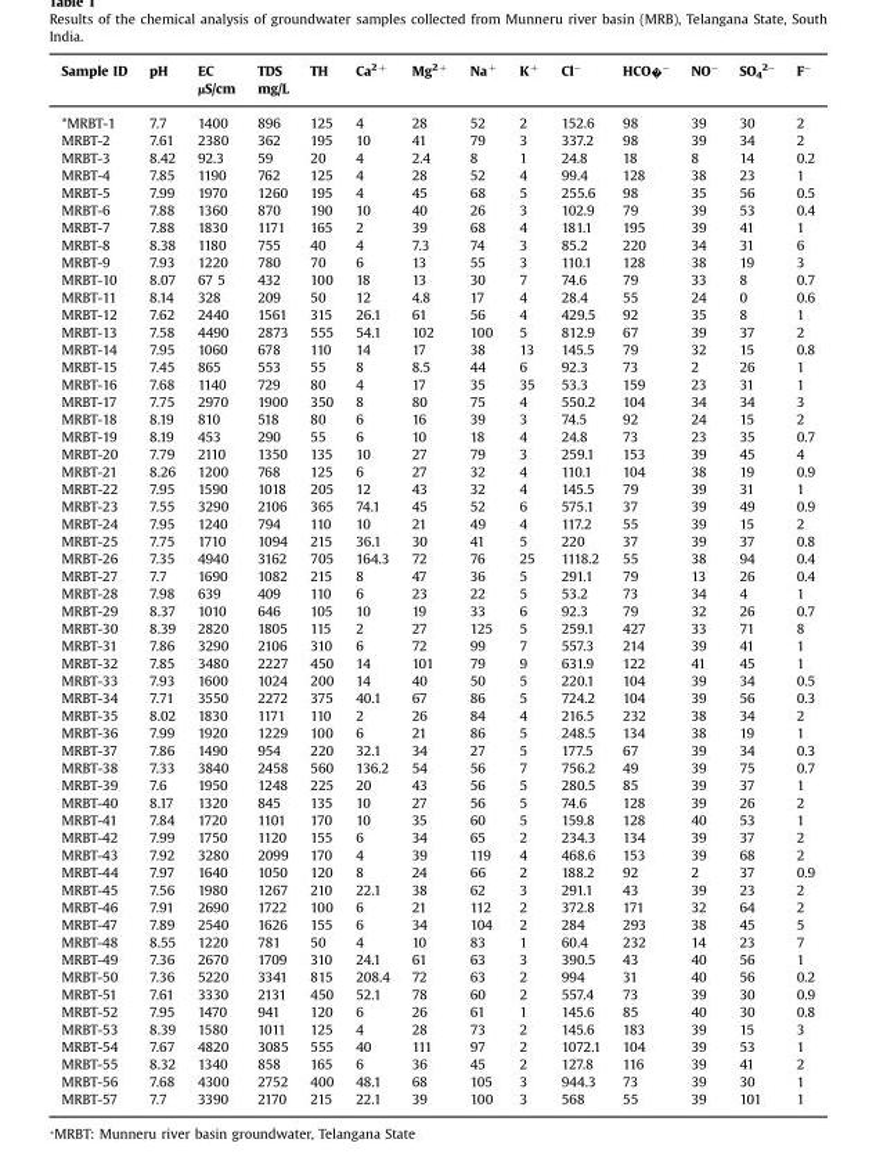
<table><thead><tr><td rowspan="2">Sample ID</td><td rowspan="2">pH</td><td rowspan="2">EC µS/cm</td><td>TDS</td><td>TH</td><td>Ca<sup>2+</sup></td><td>Mg<sup>2+</sup></td><td>Na<sup>+</sup></td><td>K<sup>+</sup></td><td>Cl<sup>−</sup></td><td>HCO₃<sup>−</sup></td><td>NO<sup>−</sup></td><td>SO<sub>4</sub> <sup>2−</sup></td><td>F<sup>−</sup></td></tr><tr><td colspan="11">mg/L</td></tr></thead><tbody><tr><td>*MRBT-1</td><td>7.7</td><td>1400</td><td>896</td><td>125</td><td>4</td><td>28</td><td>52</td><td>2</td><td>152.6</td><td>98</td><td>39</td><td>30</td><td>2</td></tr><tr><td>MRBT-2</td><td>7.61</td><td>2380</td><td>362</td><td>195</td><td>10</td><td>41</td><td>79</td><td>3</td><td>337.2</td><td>98</td><td>39</td><td>34</td><td>2</td></tr><tr><td>MRBT-3</td><td>8.42</td><td>92.3</td><td>59</td><td>20</td><td>4</td><td>2.4</td><td>8</td><td>1</td><td>24.8</td><td>18</td><td>8</td><td>14</td><td>0.2</td></tr><tr><td>MRBT-4</td><td>7.85</td><td>1190</td><td>762</td><td>125</td><td>4</td><td>28</td><td>52</td><td>4</td><td>99.4</td><td>128</td><td>38</td><td>23</td><td>1</td></tr><tr><td>MRBT-5</td><td>7.99</td><td>1970</td><td>1260</td><td>195</td><td>4</td><td>45</td><td>68</td><td>5</td><td>255.6</td><td>98</td><td>35</td><td>56</td><td>0.5</td></tr><tr><td>MRBT-6</td><td>7.88</td><td>1360</td><td>870</td><td>190</td><td>10</td><td>40</td><td>26</td><td>3</td><td>102.9</td><td>79</td><td>39</td><td>53</td><td>0.4</td></tr><tr><td>MRBT-7</td><td>7.88</td><td>1830</td><td>1171</td><td>165</td><td>2</td><td>39</td><td>68</td><td>4</td><td>181.1</td><td>195</td><td>39</td><td>41</td><td>1</td></tr><tr><td>MRBT-8</td><td>8.38</td><td>1180</td><td>755</td><td>40</td><td>4</td><td>7.3</td><td>74</td><td>3</td><td>85.2</td><td>220</td><td>34</td><td>31</td><td>6</td></tr><tr><td>MRBT-9</td><td>7.93</td><td>1220</td><td>780</td><td>70</td><td>6</td><td>13</td><td>55</td><td>3</td><td>110.1</td><td>128</td><td>38</td><td>19</td><td>3</td></tr><tr><td>MRBT-10</td><td>8.07</td><td>67 5</td><td>432</td><td>100</td><td>18</td><td>13</td><td>30</td><td>7</td><td>74.6</td><td>79</td><td>33</td><td>8</td><td>0.7</td></tr><tr><td>MRBT-11</td><td>8.14</td><td>328</td><td>209</td><td>50</td><td>12</td><td>4.8</td><td>17</td><td>4</td><td>28.4</td><td>55</td><td>24</td><td>0</td><td>0.6</td></tr><tr><td>MRBT-12</td><td>7.62</td><td>2440</td><td>1561</td><td>315</td><td>26.1</td><td>61</td><td>56</td><td>4</td><td>429.5</td><td>92</td><td>35</td><td>8</td><td>1</td></tr><tr><td>MRBT-13</td><td>7.58</td><td>4490</td><td>2873</td><td>555</td><td>54.1</td><td>102</td><td>100</td><td>5</td><td>812.9</td><td>67</td><td>39</td><td>37</td><td>2</td></tr><tr><td>MRBT-14</td><td>7.95</td><td>1060</td><td>678</td><td>110</td><td>14</td><td>17</td><td>38</td><td>13</td><td>145.5</td><td>79</td><td>32</td><td>15</td><td>0.8</td></tr><tr><td>MRBT-15</td><td>7.45</td><td>865</td><td>553</td><td>55</td><td>8</td><td>8.5</td><td>44</td><td>6</td><td>92.3</td><td>73</td><td>2</td><td>26</td><td>1</td></tr><tr><td>MRBT-16</td><td>7.68</td><td>1140</td><td>729</td><td>80</td><td>4</td><td>17</td><td>35</td><td>35</td><td>53.3</td><td>159</td><td>23</td><td>31</td><td>1</td></tr><tr><td>MRBT-17</td><td>7.75</td><td>2970</td><td>1900</td><td>350</td><td>8</td><td>80</td><td>75</td><td>4</td><td>550.2</td><td>104</td><td>34</td><td>34</td><td>3</td></tr><tr><td>MRBT-18</td><td>8.19</td><td>810</td><td>518</td><td>80</td><td>6</td><td>16</td><td>39</td><td>3</td><td>74.5</td><td>92</td><td>24</td><td>15</td><td>2</td></tr><tr><td>MRBT-19</td><td>8.19</td><td>453</td><td>290</td><td>55</td><td>6</td><td>10</td><td>18</td><td>4</td><td>24.8</td><td>73</td><td>23</td><td>35</td><td>0.7</td></tr><tr><td>MRBT-20</td><td>7.79</td><td>2110</td><td>1350</td><td>135</td><td>10</td><td>27</td><td>79</td><td>3</td><td>259.1</td><td>153</td><td>39</td><td>45</td><td>4</td></tr><tr><td>MRBT-21</td><td>8.26</td><td>1200</td><td>768</td><td>125</td><td>6</td><td>27</td><td>32</td><td>4</td><td>110.1</td><td>104</td><td>38</td><td>19</td><td>0.9</td></tr><tr><td>MRBT-22</td><td>7.95</td><td>1590</td><td>1018</td><td>205</td><td>12</td><td>43</td><td>32</td><td>4</td><td>145.5</td><td>79</td><td>39</td><td>31</td><td>1</td></tr><tr><td>MRBT-23</td><td>7.55</td><td>3290</td><td>2106</td><td>365</td><td>74.1</td><td>45</td><td>52</td><td>6</td><td>575.1</td><td>37</td><td>39</td><td>49</td><td>0.9</td></tr><tr><td>MRBT-24</td><td>7.95</td><td>1240</td><td>794</td><td>110</td><td>10</td><td>21</td><td>49</td><td>4</td><td>117.2</td><td>55</td><td>39</td><td>15</td><td>2</td></tr><tr><td>MRBT-25</td><td>7.75</td><td>1710</td><td>1094</td><td>215</td><td>36.1</td><td>30</td><td>41</td><td>5</td><td>220</td><td>37</td><td>39</td><td>37</td><td>0.8</td></tr><tr><td>MRBT-26</td><td>7.35</td><td>4940</td><td>3162</td><td>705</td><td>164.3</td><td>72</td><td>76</td><td>25</td><td>1118.2</td><td>55</td><td>38</td><td>94</td><td>0.4</td></tr><tr><td>MRBT-27</td><td>7.7</td><td>1690</td><td>1082</td><td>215</td><td>8</td><td>47</td><td>36</td><td>5</td><td>291.1</td><td>79</td><td>13</td><td>26</td><td>0.4</td></tr><tr><td>MRBT-28</td><td>7.98</td><td>639</td><td>409</td><td>110</td><td>6</td><td>23</td><td>22</td><td>5</td><td>53.2</td><td>73</td><td>34</td><td>4</td><td>1</td></tr><tr><td>MRBT-29</td><td>8.37</td><td>1010</td><td>646</td><td>105</td><td>10</td><td>19</td><td>33</td><td>6</td><td>92.3</td><td>79</td><td>32</td><td>26</td><td>0.7</td></tr><tr><td>MRBT-30</td><td>8.39</td><td>2820</td><td>1805</td><td>115</td><td>2</td><td>27</td><td>125</td><td>5</td><td>259.1</td><td>427</td><td>33</td><td>71</td><td>8</td></tr><tr><td>MRBT-31</td><td>7.86</td><td>3290</td><td>2106</td><td>310</td><td>6</td><td>72</td><td>99</td><td>7</td><td>557.3</td><td>214</td><td>39</td><td>41</td><td>1</td></tr><tr><td>MRBT-32</td><td>7.85</td><td>3480</td><td>2227</td><td>450</td><td>14</td><td>101</td><td>79</td><td>9</td><td>631.9</td><td>122</td><td>41</td><td>45</td><td>1</td></tr><tr><td>MRBT-33</td><td>7.93</td><td>1600</td><td>1024</td><td>200</td><td>14</td><td>40</td><td>50</td><td>5</td><td>220.1</td><td>104</td><td>39</td><td>34</td><td>0.5</td></tr><tr><td>MRBT-34</td><td>7.71</td><td>3550</td><td>2272</td><td>375</td><td>40.1</td><td>67</td><td>86</td><td>5</td><td>724.2</td><td>104</td><td>39</td><td>56</td><td>0.3</td></tr><tr><td>MRBT-35</td><td>8.02</td><td>1830</td><td>1171</td><td>110</td><td>2</td><td>26</td><td>84</td><td>4</td><td>216.5</td><td>232</td><td>38</td><td>34</td><td>2</td></tr><tr><td>MRBT-36</td><td>7.99</td><td>1920</td><td>1229</td><td>100</td><td>6</td><td>21</td><td>86</td><td>5</td><td>248.5</td><td>134</td><td>38</td><td>19</td><td>1</td></tr><tr><td>MRBT-37</td><td>7.86</td><td>1490</td><td>954</td><td>220</td><td>32.1</td><td>34</td><td>27</td><td>5</td><td>177.5</td><td>67</td><td>39</td><td>34</td><td>0.3</td></tr><tr><td>MRBT-38</td><td>7.33</td><td>3840</td><td>2458</td><td>560</td><td>136.2</td><td>54</td><td>56</td><td>7</td><td>756.2</td><td>49</td><td>39</td><td>75</td><td>0.7</td></tr><tr><td>MRBT-39</td><td>7.6</td><td>1950</td><td>1248</td><td>225</td><td>20</td><td>43</td><td>56</td><td>5</td><td>280.5</td><td>85</td><td>39</td><td>37</td><td>1</td></tr><tr><td>MRBT-40</td><td>8.17</td><td>1320</td><td>845</td><td>135</td><td>10</td><td>27</td><td>56</td><td>5</td><td>74.6</td><td>128</td><td>39</td><td>26</td><td>2</td></tr><tr><td>MRBT-41</td><td>7.84</td><td>1720</td><td>1101</td><td>170</td><td>10</td><td>35</td><td>60</td><td>5</td><td>159.8</td><td>128</td><td>40</td><td>53</td><td>1</td></tr><tr><td>MRBT-42</td><td>7.99</td><td>1750</td><td>1120</td><td>155</td><td>6</td><td>34</td><td>65</td><td>2</td><td>234.3</td><td>134</td><td>39</td><td>37</td><td>2</td></tr><tr><td>MRBT-43</td><td>7.92</td><td>3280</td><td>2099</td><td>170</td><td>4</td><td>39</td><td>119</td><td>4</td><td>468.6</td><td>153</td><td>39</td><td>68</td><td>2</td></tr><tr><td>MRBT-44</td><td>7.97</td><td>1640</td><td>1050</td><td>120</td><td>8</td><td>24</td><td>66</td><td>2</td><td>188.2</td><td>92</td><td>2</td><td>37</td><td>0.9</td></tr><tr><td>MRBT-45</td><td>7.56</td><td>1980</td><td>1267</td><td>210</td><td>22.1</td><td>38</td><td>62</td><td>3</td><td>291.1</td><td>43</td><td>39</td><td>23</td><td>2</td></tr><tr><td>MRBT-46</td><td>7.91</td><td>2690</td><td>1722</td><td>100</td><td>6</td><td>21</td><td>112</td><td>2</td><td>372.8</td><td>171</td><td>32</td><td>64</td><td>2</td></tr><tr><td>MRBT-47</td><td>7.89</td><td>2540</td><td>1626</td><td>155</td><td>6</td><td>34</td><td>104</td><td>2</td><td>284</td><td>293</td><td>38</td><td>45</td><td>5</td></tr><tr><td>MRBT-48</td><td>8.55</td><td>1220</td><td>781</td><td>50</td><td>4</td><td>10</td><td>83</td><td>1</td><td>60.4</td><td>232</td><td>14</td><td>23</td><td>7</td></tr><tr><td>MRBT-49</td><td>7.36</td><td>2670</td><td>1709</td><td>310</td><td>24.1</td><td>61</td><td>63</td><td>3</td><td>390.5</td><td>43</td><td>40</td><td>56</td><td>1</td></tr><tr><td>MRBT-50</td><td>7.36</td><td>5220</td><td>3341</td><td>815</td><td>208.4</td><td>72</td><td>63</td><td>2</td><td>994</td><td>31</td><td>40</td><td>56</td><td>0.2</td></tr><tr><td>MRBT-51</td><td>7.61</td><td>3330</td><td>2131</td><td>450</td><td>52.1</td><td>78</td><td>60</td><td>2</td><td>557.4</td><td>73</td><td>39</td><td>30</td><td>0.9</td></tr><tr><td>MRBT-52</td><td>7.95</td><td>1470</td><td>941</td><td>120</td><td>6</td><td>26</td><td>61</td><td>1</td><td>145.6</td><td>85</td><td>40</td><td>30</td><td>0.8</td></tr><tr><td>MRBT-53</td><td>8.39</td><td>1580</td><td>1011</td><td>125</td><td>4</td><td>28</td><td>73</td><td>2</td><td>145.6</td><td>183</td><td>39</td><td>15</td><td>3</td></tr><tr><td>MRBT-54</td><td>7.67</td><td>4820</td><td>3085</td><td>555</td><td>40</td><td>111</td><td>97</td><td>2</td><td>1072.1</td><td>104</td><td>39</td><td>53</td><td>1</td></tr><tr><td>MRBT-55</td><td>8.32</td><td>1340</td><td>858</td><td>165</td><td>6</td><td>36</td><td>45</td><td>2</td><td>127.8</td><td>116</td><td>39</td><td>41</td><td>2</td></tr><tr><td>MRBT-56</td><td>7.68</td><td>4300</td><td>2752</td><td>400</td><td>48.1</td><td>68</td><td>105</td><td>3</td><td>944.3</td><td>73</td><td>39</td><td>30</td><td>1</td></tr><tr><td>MRBT-57</td><td>7.7</td><td>3390</td><td>2170</td><td>215</td><td>22.1</td><td>39</td><td>100</td><td>3</td><td>568</td><td>55</td><td>39</td><td>101</td><td>1</td></tr></tbody></table>